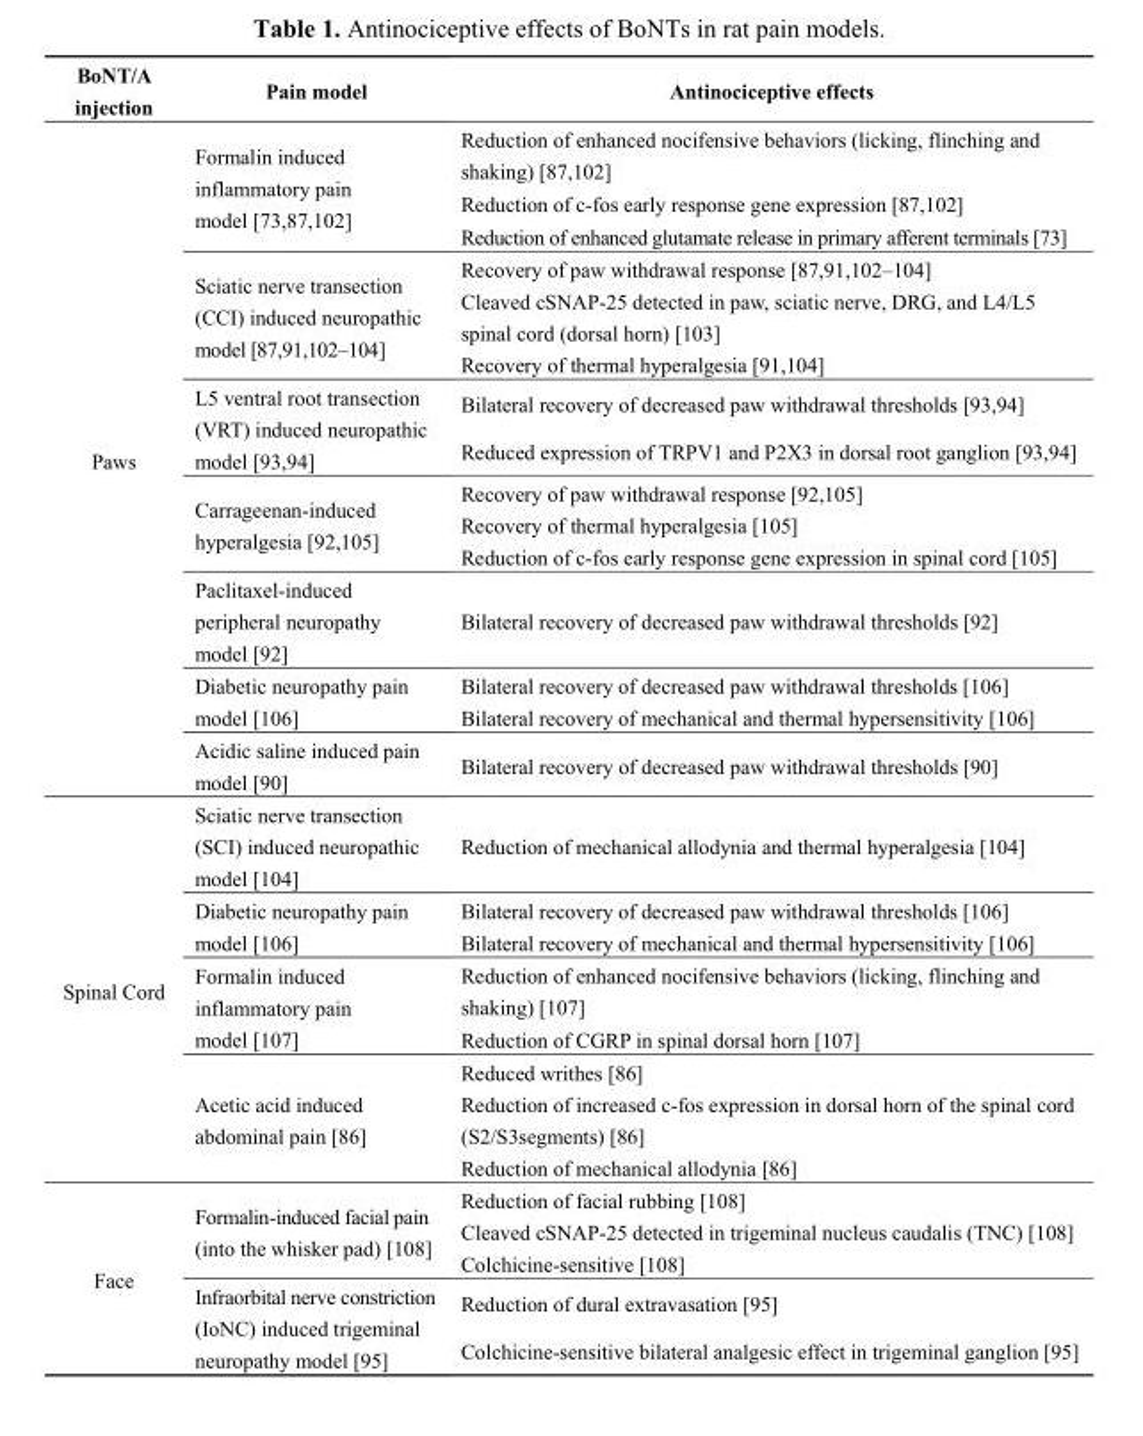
<table><thead><tr><td>BoNT/A injection</td><td>Pain model</td><td>Antinociceptive effects</td></tr></thead><tbody><tr><td rowspan="15">Paws</td><td rowspan="3">Formalin induced inflammatory pain model [73,87,102]</td><td>Reduction of enhanced nocifensive behaviors (licking, flinching and shaking) [87,102]</td></tr><tr><td>Reduction of c-fos early response gene expression [87,102]</td></tr><tr><td>Reduction of enhanced glutamate release in primary afferent terminals [73]</td></tr><tr><td rowspan="3">Sciatic nerve transection (CCI) induced neuropathic model [87,91,102–104]</td><td>Recovery of paw withdrawal response [87,91,102–104]</td></tr><tr><td>Cleaved cSNAP-25 detected in paw, sciatic nerve, DRG, and L4/L5 spinal cord (dorsal horn) [103]</td></tr><tr><td>Recovery of thermal hyperalgesia [91,104]</td></tr><tr><td rowspan="2">L5 ventral root transection (VRT) induced neuropathic model [93,94]</td><td>Bilateral recovery of decreased paw withdrawal thresholds [93,94]</td></tr><tr><td>Reduced expression of TRPV1 and P2X3 in dorsal root ganglion [93,94]</td></tr><tr><td rowspan="3">Carrageenan-induced hyperalgesia [92,105]</td><td>Recovery of paw withdrawal response [92,105]</td></tr><tr><td>Recovery of thermal hyperalgesia [105]</td></tr><tr><td>Reduction of c-fos early response gene expression in spinal cord [105]</td></tr><tr><td>Paclitaxel-induced peripheral neuropathy model [92]</td><td>Bilateral recovery of decreased paw withdrawal thresholds [92]</td></tr><tr><td rowspan="2">Diabetic neuropathy pain model [106]</td><td>Bilateral recovery of decreased paw withdrawal thresholds [106]</td></tr><tr><td>Bilateral recovery of mechanical and thermal hypersensitivity [106]</td></tr><tr><td>Acidic saline induced pain model [90]</td><td>Bilateral recovery of decreased paw withdrawal thresholds [90]</td></tr><tr><td rowspan="8">Spinal Cord</td><td>Sciatic nerve transection (SCI) induced neuropathic model [104]</td><td>Reduction of mechanical allodynia and thermal hyperalgesia [104]</td></tr><tr><td rowspan="2">Diabetic neuropathy pain model [106]</td><td>Bilateral recovery of decreased paw withdrawal thresholds [106]</td></tr><tr><td>Bilateral recovery of mechanical and thermal hypersensitivity [106]</td></tr><tr><td rowspan="2">Formalin induced inflammatory pain model [107]</td><td>Reduction of enhanced nocifensive behaviors (licking, flinching and shaking) [107]</td></tr><tr><td>Reduction of CGRP in spinal dorsal horn [107]</td></tr><tr><td rowspan="3">Acetic acid induced abdominal pain [86]</td><td>Reduced writhes [86]</td></tr><tr><td>Reduction of increased c-fos expression in dorsal horn of the spinal cord (S2/S3segments) [86]</td></tr><tr><td>Reduction of mechanical allodynia [86]</td></tr><tr><td rowspan="5">Face</td><td rowspan="3">Formalin-induced facial pain (into the whisker pad) [108]</td><td>Reduction of facial rubbing [108]</td></tr><tr><td>Cleaved cSNAP-25 detected in trigeminal nucleus caudalis (TNC) [108]</td></tr><tr><td>Colchicine-sensitive [108]</td></tr><tr><td rowspan="2">Infraorbital nerve constriction (IoNC) induced trigeminal neuropathy model [95]</td><td>Reduction of dural extravasation [95]</td></tr><tr><td>Colchicine-sensitive bilateral analgesic effect in trigeminal ganglion [95]</td></tr></tbody></table>